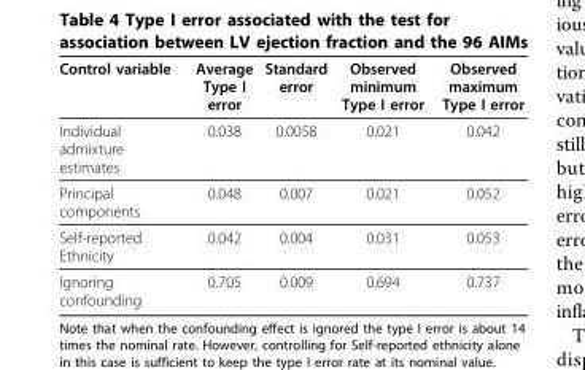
<table><thead><tr><td>Control variable</td><td>Average Type I error</td><td>Standard error</td><td>Observed minimum Type I error</td><td>Observed maximum Type I error</td></tr></thead><tbody><tr><td>Individual admixture estimates</td><td>0.038</td><td>0.0058</td><td>0.021</td><td>0.042</td></tr><tr><td>Principal components</td><td>0.048</td><td>0.007</td><td>0.021</td><td>0.052</td></tr><tr><td>Self-reported Ethnicity</td><td>0.042</td><td>0.004</td><td>0.031</td><td>0.053</td></tr><tr><td>Ignoring confounding</td><td>0.705</td><td>0.009</td><td>0.694</td><td>0.737</td></tr></tbody></table>